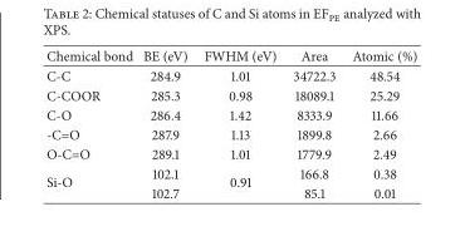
<table><thead><tr><td>Chemical bond</td><td>BE (eV)</td><td>FWHM (eV)</td><td>Area</td><td>Atomic (%)</td></tr></thead><tbody><tr><td>C-C</td><td>284.9</td><td>1.01</td><td>34722.3</td><td>48.54</td></tr><tr><td>C-COOR</td><td>285.3</td><td>0.98</td><td>18089.1</td><td>25.29</td></tr><tr><td>C-O</td><td>286.4</td><td>1.42</td><td>8333.9</td><td>11.66</td></tr><tr><td>-C=O</td><td>287.9</td><td>1.13</td><td>1899.8</td><td>2.66</td></tr><tr><td>O-C=O</td><td>289.1</td><td>1.01</td><td>1779.9</td><td>2.49</td></tr><tr><td rowspan="2">Si-O</td><td>102.1</td><td rowspan="2">0.91</td><td>166.8</td><td>0.38</td></tr><tr><td>102.7</td><td>85.1</td><td>0.01</td></tr></tbody></table>